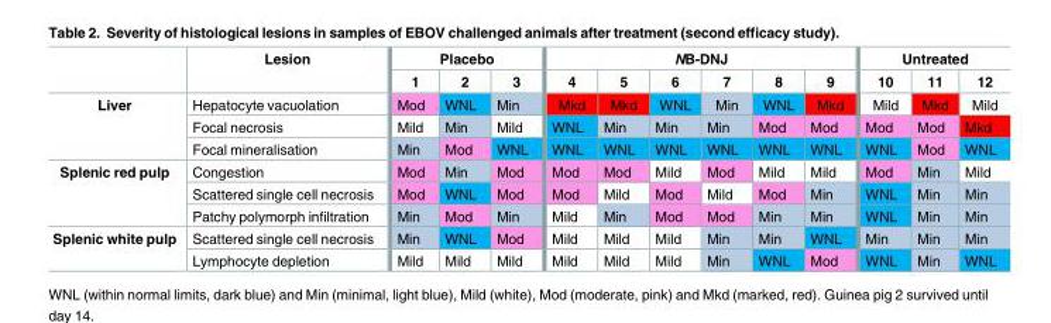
<table><thead><tr><td rowspan="2"></td><td rowspan="2">Lesion</td><td colspan="3">Placebo</td><td colspan="6">NB-DNJ</td><td colspan="3">Untreated</td></tr><tr><td>1</td><td>2</td><td>3</td><td>4</td><td>5</td><td>6</td><td>7</td><td>8</td><td>9</td><td>10</td><td>11</td><td>12</td></tr></thead><tbody><tr><td rowspan="3">Liver</td><td>Hepatocyte vacuolation</td><td>Mod</td><td>WNL</td><td>Min</td><td>Mkd</td><td>Mkd</td><td>WNL</td><td>Min</td><td>WNL</td><td>Mkd</td><td>Mild</td><td>Mkd</td><td>Mild</td></tr><tr><td>Focal necrosis</td><td>Mild</td><td>Min</td><td>Mild</td><td>WNL</td><td>Min</td><td>Min</td><td>Min</td><td>Mod</td><td>Mod</td><td>Mod</td><td>Mod</td><td>Mkd</td></tr><tr><td>Focal mineralisation</td><td>Min</td><td>Mod</td><td>WNL</td><td>WNL</td><td>WNL</td><td>WNL</td><td>WNL</td><td>WNL</td><td>WNL</td><td>WNL</td><td>Mod</td><td>WNL</td></tr><tr><td rowspan="3">Splenic red pulp</td><td>Congestion</td><td>Mod</td><td>Min</td><td>Mod</td><td>Mod</td><td>Mod</td><td>Mild</td><td>Mod</td><td>Mild</td><td>Mild</td><td>Mod</td><td>Min</td><td>Mild</td></tr><tr><td>Scattered single cell necrosis</td><td>Mod</td><td>WNL</td><td>Mod</td><td>Mod</td><td>Mild</td><td>Mod</td><td>Mild</td><td>Mod</td><td>Min</td><td>WNL</td><td>Min</td><td>Min</td></tr><tr><td>Patchy polymorph infiltration</td><td>Min</td><td>Mod</td><td>Min</td><td>Mild</td><td>Min</td><td>Mod</td><td>Mod</td><td>Min</td><td>Min</td><td>WNL</td><td>Min</td><td>Min</td></tr><tr><td rowspan="2">Splenic white pulp</td><td>Scattered single cell necrosis</td><td>Min</td><td>WNL</td><td>Mod</td><td>Mild</td><td>Mild</td><td>Mild</td><td>Min</td><td>Min</td><td>WNL</td><td>Min</td><td>Min</td><td>Min</td></tr><tr><td>Lymphocyte depletion</td><td>Mild</td><td>Mild</td><td>Mild</td><td>Mild</td><td>Mild</td><td>Mild</td><td>Min</td><td>WNL</td><td>Mod</td><td>WNL</td><td>Min</td><td>WNL</td></tr></tbody></table>